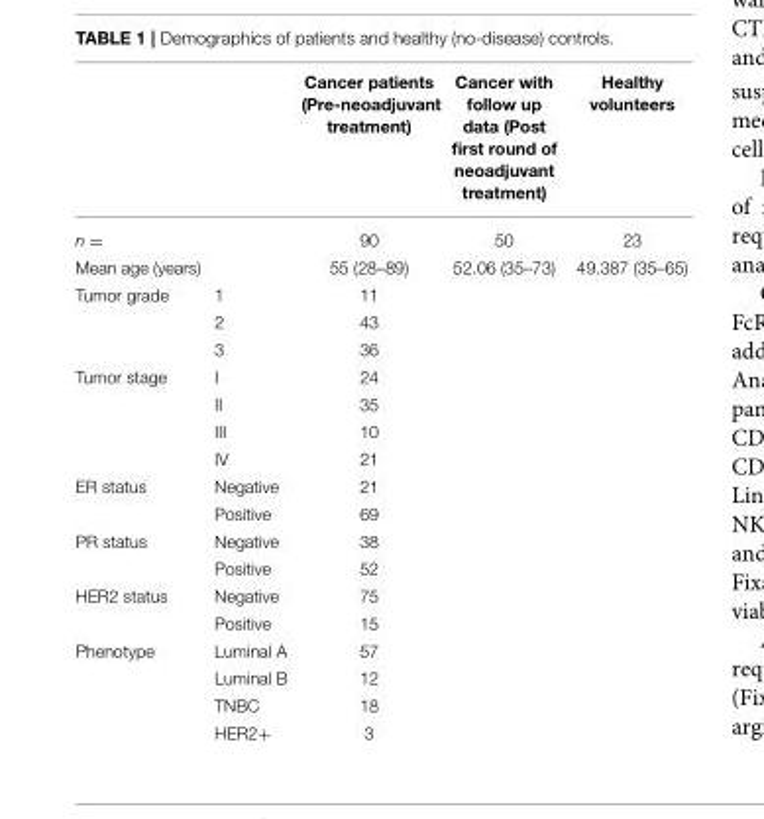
<table><thead><tr><td></td><td></td><td>Cancer patients (Pre-neoadjuvant treatment)</td><td>Cancer with follow up data (Post first round of neoadjuvant treatment)</td><td>Healthy volunteers</td></tr></thead><tbody><tr><td>n =</td><td></td><td>90</td><td>50</td><td>23</td></tr><tr><td>Mean age (years)</td><td></td><td>55 (28–89)</td><td>52.06 (35–73)</td><td>49.387 (35–65)</td></tr><tr><td rowspan="3">Tumor grade</td><td>1</td><td>11</td><td></td><td></td></tr><tr><td>2</td><td>43</td><td></td><td></td></tr><tr><td>3</td><td>36</td><td></td><td></td></tr><tr><td rowspan="4">Tumor stage</td><td>I</td><td>24</td><td></td><td></td></tr><tr><td>II</td><td>35</td><td></td><td></td></tr><tr><td>III</td><td>10</td><td></td><td></td></tr><tr><td>IV</td><td>21</td><td></td><td></td></tr><tr><td rowspan="2">ER status</td><td>Negative</td><td>21</td><td></td><td></td></tr><tr><td>Positive</td><td>69</td><td></td><td></td></tr><tr><td rowspan="2">PR status</td><td>Negative</td><td>38</td><td></td><td></td></tr><tr><td>Positive</td><td>52</td><td></td><td></td></tr><tr><td rowspan="2">HER2 status</td><td>Negative</td><td>75</td><td></td><td></td></tr><tr><td>Positive</td><td>15</td><td></td><td></td></tr><tr><td rowspan="4">Phenotype</td><td>Luminal A</td><td>57</td><td></td><td></td></tr><tr><td>Luminal B</td><td>12</td><td></td><td></td></tr><tr><td>TNBC</td><td>18</td><td></td><td></td></tr><tr><td>HER2+</td><td>3</td><td></td><td></td></tr></tbody></table>